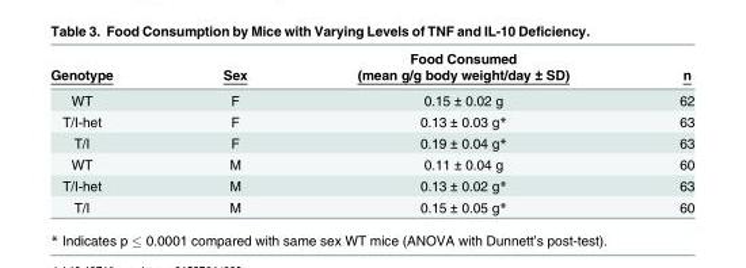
<table><thead><tr><td rowspan="2">Genotype</td><td rowspan="2">Sex</td><td rowspan="2">Food Consumed (mean g/g body weight/day ± SD)</td><td rowspan="2">n</td></tr><tr></tr></thead><tbody><tr><td>WT</td><td>F</td><td>0.15 ± 0.02 g</td><td>62</td></tr><tr><td>T/I-het</td><td>F</td><td>0.13 ± 0.03 g*</td><td>63</td></tr><tr><td>T/I</td><td>F</td><td>0.19 ± 0.04 g*</td><td>63</td></tr><tr><td>WT</td><td>M</td><td>0.11 ± 0.04 g</td><td>60</td></tr><tr><td>T/I-het</td><td>M</td><td>0.13 ± 0.02 g*</td><td>63</td></tr><tr><td>T/I</td><td>M</td><td>0.15 ± 0.05 g*</td><td>60</td></tr></tbody></table>